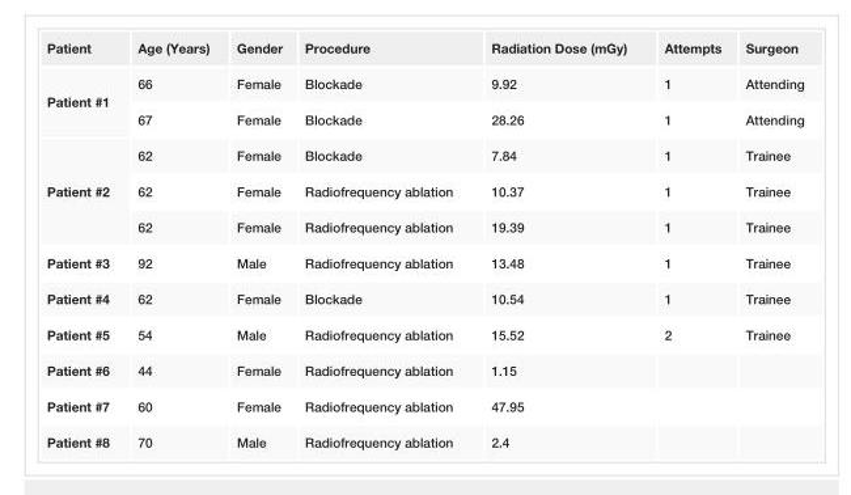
<table><tbody><tr><td>Patient</td><td>Age (Years)</td><td>Gender</td><td>Procedure</td><td>Radiation Dose (mGy)</td><td>Attempts</td><td>Surgeon</td></tr><tr><td rowspan="2">Patient #1</td><td>66</td><td>Female</td><td>Blockade</td><td>9.92</td><td>1</td><td>Attending</td></tr><tr><td>67</td><td>Female</td><td>Blockade</td><td>28.26</td><td>1</td><td>Attending</td></tr><tr><td rowspan="3">Patient #2</td><td>62</td><td>Female</td><td>Blockade</td><td>7.84</td><td>1</td><td>Trainee</td></tr><tr><td>62</td><td>Female</td><td>Radiofrequency ablation</td><td>10.37</td><td>1</td><td>Trainee</td></tr><tr><td>62</td><td>Female</td><td>Radiofrequency ablation</td><td>19.39</td><td>1</td><td>Trainee</td></tr><tr><td>Patient #3</td><td>92</td><td>Male</td><td>Radiofrequency ablation</td><td>13.48</td><td>1</td><td>Trainee</td></tr><tr><td>Patient #4</td><td>62</td><td>Female</td><td>Blockade</td><td>10.54</td><td>1</td><td>Trainee</td></tr><tr><td>Patient #5</td><td>54</td><td>Male</td><td>Radiofrequency ablation</td><td>15.52</td><td>2</td><td>Trainee</td></tr><tr><td>Patient #6</td><td>44</td><td>Female</td><td>Radiofrequency ablation</td><td>1.15</td><td></td><td></td></tr><tr><td>Patient #7</td><td>60</td><td>Female</td><td>Radiofrequency ablation</td><td>47.95</td><td></td><td></td></tr><tr><td>Patient #8</td><td>70</td><td>Male</td><td>Radiofrequency ablation</td><td>2.4</td><td></td><td></td></tr></tbody></table>